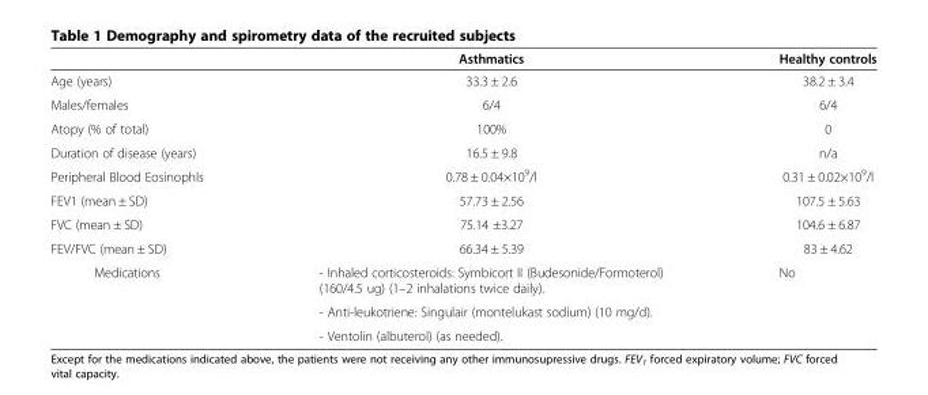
<table><thead><tr><td></td><td>Asthmatics</td><td>Healthy controls</td></tr></thead><tbody><tr><td>Age (years)</td><td>33.3 ± 2.6</td><td>38.2 ± 3.4</td></tr><tr><td>Males/females</td><td>6/4</td><td>6/4</td></tr><tr><td>Atopy (% of total)</td><td>100%</td><td>0</td></tr><tr><td>Duration of disease (years)</td><td>16.5 ± 9.8</td><td>n/a</td></tr><tr><td>Peripheral Blood Eosinophls</td><td>0.78 ± 0.04×10<sup>9</sup>/l</td><td>0.31 ± 0.02×10<sup>9</sup>/l</td></tr><tr><td>FEV1 (mean ± SD)</td><td>57.73 ± 2.56</td><td>107.5 ± 5.63</td></tr><tr><td>FVC (mean ± SD)</td><td>75.14 ±3.27</td><td>104.6 ± 6.87</td></tr><tr><td>FEV/FVC (mean ± SD)</td><td>66.34 ± 5.39</td><td>83 ± 4.62</td></tr><tr><td rowspan="3">Medications</td><td>- Inhaled corticosteroids: Symbicort II (Budesonide/Formoterol) (160/4.5 ug) (1–2 inhalations twice daily).</td><td>No</td></tr><tr><td>- Anti-leukotriene: Singulair (montelukast sodium) (10 mg/d).</td><td></td></tr><tr><td>- Ventolin (albuterol) (as needed).</td><td></td></tr></tbody></table>